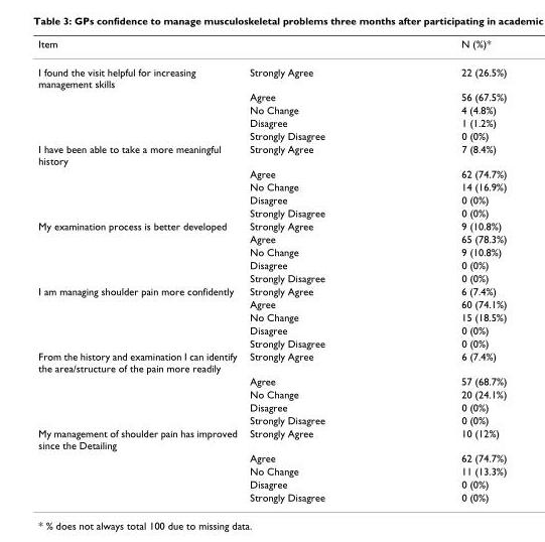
<table><thead><tr><td>Item</td><td></td><td>N (%)*</td></tr></thead><tbody><tr><td rowspan="5">I found the visit helpful for increasing management skills</td><td>Strongly Agree</td><td>22 (26.5%)</td></tr><tr><td>Agree</td><td>56 (67.5%)</td></tr><tr><td>No Change</td><td>4 (4.8%)</td></tr><tr><td>Disagree</td><td>1 (1.2%)</td></tr><tr><td>Strongly Disagree</td><td>0 (0%)</td></tr><tr><td rowspan="5">I have been able to take a more meaningful history</td><td>Strongly Agree</td><td>7 (8.4%)</td></tr><tr><td>Agree</td><td>62 (74.7%)</td></tr><tr><td>No Change</td><td>14 (16.9%)</td></tr><tr><td>Disagree</td><td>0 (0%)</td></tr><tr><td>Strongly Disagree</td><td>0 (0%)</td></tr><tr><td rowspan="5">My examination process is better developed</td><td>Strongly Agree</td><td>9 (10.8%)</td></tr><tr><td>Agree</td><td>65 (78.3%)</td></tr><tr><td>No Change</td><td>9 (10.8%)</td></tr><tr><td>Disagree</td><td>0 (0%)</td></tr><tr><td>Strongly Disagree</td><td>0 (0%)</td></tr><tr><td rowspan="5">I am managing shoulder pain more confidently</td><td>Strongly Agree</td><td>6 (7.4%)</td></tr><tr><td>Agree</td><td>60 (74.1%)</td></tr><tr><td>No Change</td><td>15 (18.5%)</td></tr><tr><td>Disagree</td><td>0 (0%)</td></tr><tr><td>Strongly Disagree</td><td>0 (0%)</td></tr><tr><td rowspan="5">From the history and examination I can identify the area/structure of the pain more readily</td><td>Strongly Agree</td><td>6 (7.4%)</td></tr><tr><td>Agree</td><td>57 (68.7%)</td></tr><tr><td>No Change</td><td>20 (24.1%)</td></tr><tr><td>Disagree</td><td>0 (0%)</td></tr><tr><td>Strongly Disagree</td><td>0 (0%)</td></tr><tr><td rowspan="5">My management of shoulder pain has improved since the Detailing</td><td>Strongly Agree</td><td>10 (12%)</td></tr><tr><td>Agree</td><td>62 (74.7%)</td></tr><tr><td>No Change</td><td>11 (13.3%)</td></tr><tr><td>Disagree</td><td>0 (0%)</td></tr><tr><td>Strongly Disagree</td><td>0 (0%)</td></tr></tbody></table>